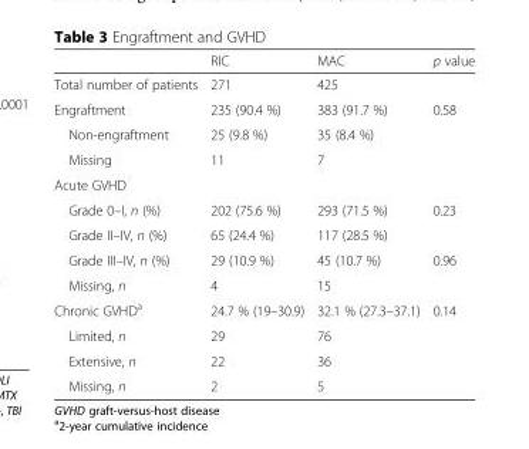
<table><thead><tr><td></td><td>RIC</td><td>MAC</td><td>p value</td></tr></thead><tbody><tr><td>Total number of patients</td><td>271</td><td>425</td><td></td></tr><tr><td>Engraftment</td><td>235 (90.4 %)</td><td>383 (91.7 %)</td><td>0.58</td></tr><tr><td>Non-engraftment</td><td>25 (9.8 %)</td><td>35 (8.4 %)</td><td></td></tr><tr><td>Missing</td><td>11</td><td>7</td><td></td></tr><tr><td colspan="4">Acute GVHD</td></tr><tr><td>Grade 0–I, n (%)</td><td>202 (75.6 %)</td><td>293 (71.5 %)</td><td>0.23</td></tr><tr><td>Grade II–IV, n (%)</td><td>65 (24.4 %)</td><td>117 (28.5 %)</td><td></td></tr><tr><td>Grade III–IV, n (%)</td><td>29 (10.9 %)</td><td>45 (10.7 %)</td><td>0.96</td></tr><tr><td>Missing, n</td><td>4</td><td>15</td><td></td></tr><tr><td>Chronic GVHD<sup>a</sup></td><td>24.7 % (19–30.9)</td><td>32.1 % (27.3–37.1)</td><td>0.14</td></tr><tr><td>Limited, n</td><td>29</td><td>76</td><td></td></tr><tr><td>Extensive, n</td><td>22</td><td>36</td><td></td></tr><tr><td>Missing, n</td><td>2</td><td>5</td><td></td></tr></tbody></table>